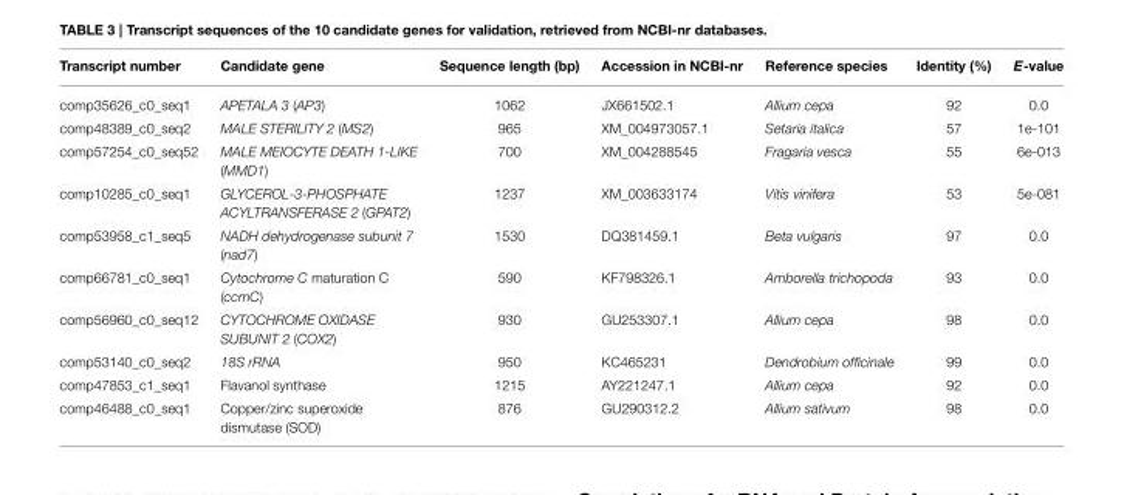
<table><thead><tr><td>Transcript number</td><td>Candidate gene</td><td>Sequence length (bp)</td><td>Accession in NCBI-nr</td><td>Reference species</td><td>Identity (%)</td><td>E-value</td></tr></thead><tbody><tr><td>comp35626_c0_seq1</td><td>APETALA 3 (AP3)</td><td>1062</td><td>JX661502.1</td><td>Allium cepa</td><td>92</td><td>0.0</td></tr><tr><td>comp48389_c0_seq2</td><td>MALE STERILITY 2 (MS2)</td><td>965</td><td>XM_004973057.1</td><td>Setaria italica</td><td>57</td><td>1e-101</td></tr><tr><td>comp57254_c0_seq52</td><td>MALE MEIOCYTE DEATH 1-LIKE (MMD1)</td><td>700</td><td>XM_004288545</td><td>Fragaria vesca</td><td>55</td><td>6e-013</td></tr><tr><td>comp10285_c0_seq1</td><td>GLYCEROL-3-PHOSPHATE ACYLTRANSFERASE 2 (GPAT2)</td><td>1237</td><td>XM_003633174</td><td>Vitis vinifera</td><td>53</td><td>5e-081</td></tr><tr><td>comp53958_c1_seq5</td><td>NADH dehydrogenase subunit 7 (nad7)</td><td>1530</td><td>DQ381459.1</td><td>Beta vulgaris</td><td>97</td><td>0.0</td></tr><tr><td>comp66781_c0_seq1</td><td>Cytochrome C maturation C (ccmC)</td><td>590</td><td>KF798326.1</td><td>Amborella trichopoda</td><td>93</td><td>0.0</td></tr><tr><td>comp56960_c0_seq12</td><td>CYTOCHROME OXIDASE SUBUNIT 2 (COX2)</td><td>930</td><td>GU253307.1</td><td>Allium cepa</td><td>98</td><td>0.0</td></tr><tr><td>comp53140_c0_seq2</td><td>18S rRNA</td><td>950</td><td>KC465231</td><td>Dendrobium officinale</td><td>99</td><td>0.0</td></tr><tr><td>comp47853_c1_seq1</td><td>Flavanol synthase</td><td>1215</td><td>AY221247.1</td><td>Allium cepa</td><td>92</td><td>0.0</td></tr><tr><td>comp46488_c0_seq1</td><td>Copper/zinc superoxide dismutase (SOD)</td><td>876</td><td>GU290312.2</td><td>Allium sativum</td><td>98</td><td>0.0</td></tr></tbody></table>